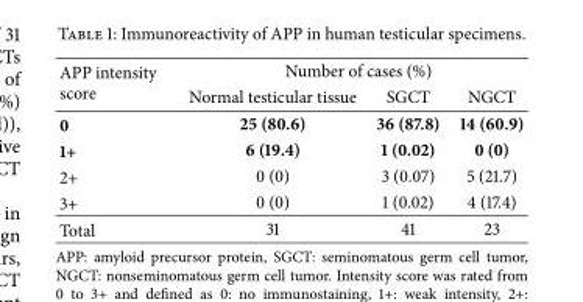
<table><thead><tr><td rowspan="2">APP intensity score</td><td colspan="3">Number of cases (%)</td></tr><tr><td>Normal testicular tissue</td><td>SGCT</td><td>NGCT</td></tr></thead><tbody><tr><td>0</td><td>25 (80.6)</td><td>36 (87.8)</td><td>14 (60.9)</td></tr><tr><td>1+</td><td>6 (19.4)</td><td>1 (0.02)</td><td>0 (0)</td></tr><tr><td>2+</td><td>0 (0)</td><td>3 (0.07)</td><td>5 (21.7)</td></tr><tr><td>3+</td><td>0 (0)</td><td>1 (0.02)</td><td>4 (17.4)</td></tr><tr><td>Total</td><td>31</td><td>41</td><td>23</td></tr></tbody></table>